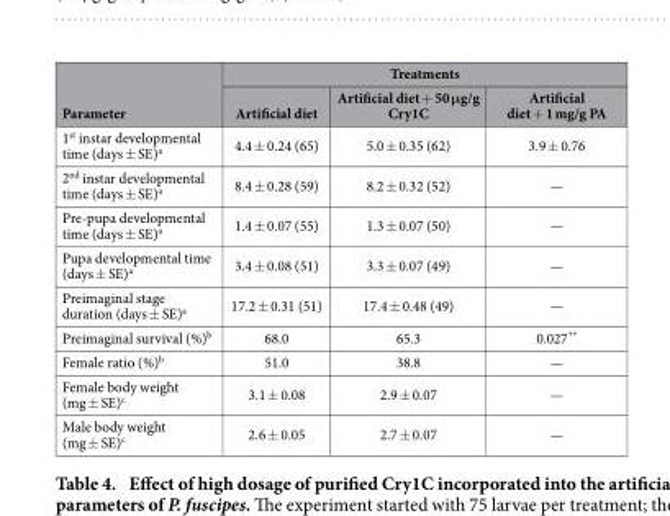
<table><thead><tr><td rowspan="2">Parameter</td><td colspan="3">Treatments</td></tr><tr><td>Artificial diet</td><td>Artificial diet + 50 μg/g Cry1C</td><td>Artificial diet + 1 mg/g PA</td></tr></thead><tbody><tr><td>1<sup>st</sup> instar developmental time (days ± SE)<sup>a</sup></td><td>4.4 ± 0.24 (65)</td><td>5.0 ± 0.35 (62)</td><td>3.9 ± 0.76</td></tr><tr><td>2<sup>nd</sup> instar developmental time (days ± SE)<sup>a</sup></td><td>8.4 ± 0.28 (59)</td><td>8.2 ± 0.32 (52)</td><td>—</td></tr><tr><td>Pre-pupa developmental time (days ± SE)<sup>a</sup></td><td>1.4 ± 0.07 (55)</td><td>1.3 ± 0.07 (50)</td><td>—</td></tr><tr><td>Pupa developmental time (days ± SE)<sup>a</sup></td><td>3.4 ± 0.08 (51)</td><td>3.3 ± 0.07 (49)</td><td>—</td></tr><tr><td>Preimaginal stage duration (days ± SE)<sup>a</sup></td><td>17.2 ± 0.31 (51)</td><td>17.4 ± 0.48 (49)</td><td>—</td></tr><tr><td>Preimaginal survival (%)<sup>b</sup></td><td>68.0</td><td>65.3</td><td>0.027**</td></tr><tr><td>Female ratio (%)<sup>b</sup></td><td>51.0</td><td>38.8</td><td>—</td></tr><tr><td>Female body weight (mg ± SE)<sup>c</sup></td><td>3.1 ± 0.08</td><td>2.9 ± 0.07</td><td>—</td></tr><tr><td>Male body weight (mg ± SE)<sup>c</sup></td><td>2.6 ± 0.05</td><td>2.7 ± 0.07</td><td>—</td></tr></tbody></table>